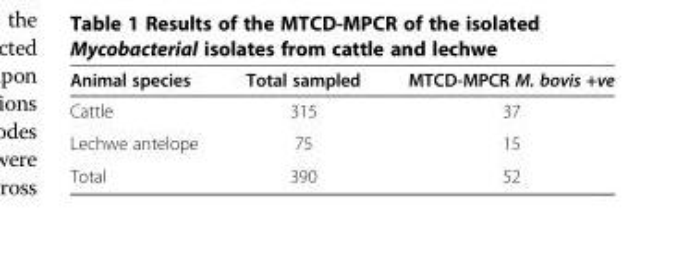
<table><thead><tr><td>Animal species</td><td>Total sampled</td><td>MTCD-MPCR M. bovis +ve</td></tr></thead><tbody><tr><td>Cattle</td><td>315</td><td>37</td></tr><tr><td>Lechwe antelope</td><td>75</td><td>15</td></tr><tr><td>Total</td><td>390</td><td>52</td></tr></tbody></table>